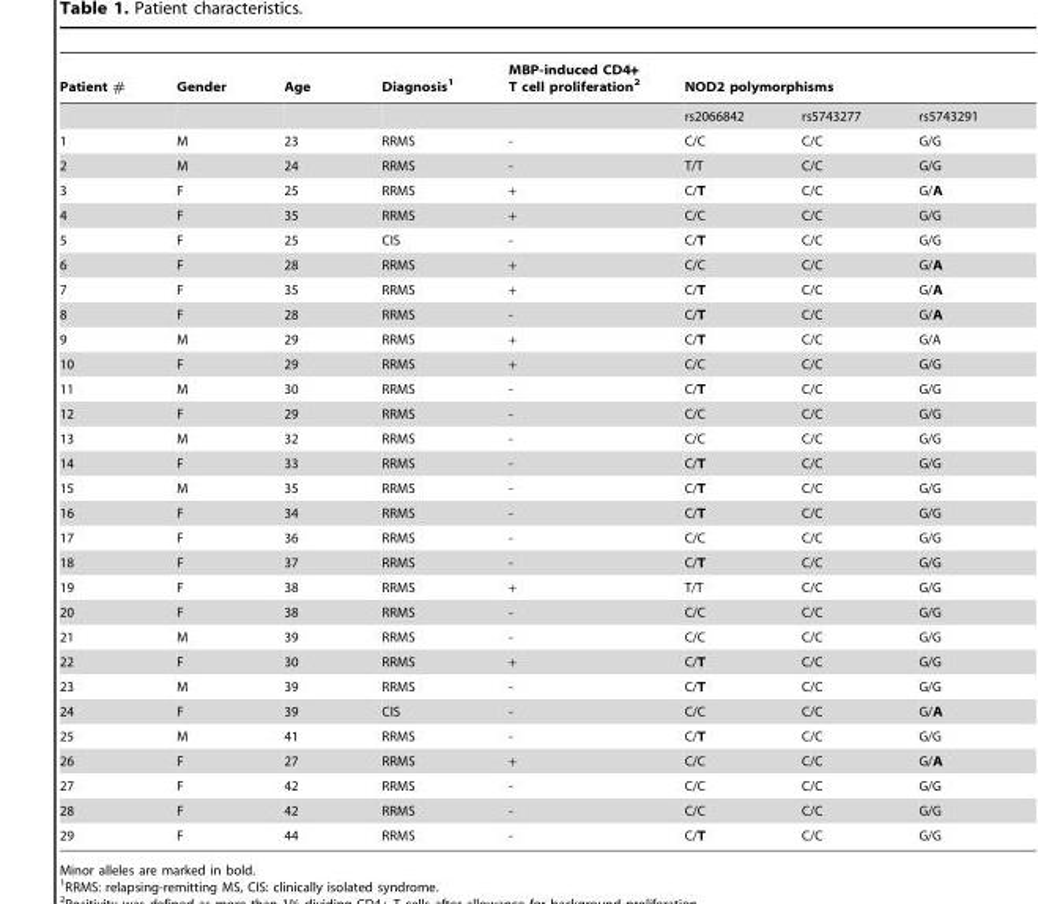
<table><thead><tr><td rowspan="2">Patient #</td><td rowspan="2">Gender</td><td rowspan="2">Age</td><td rowspan="2">Diagnosis<sup>1</sup></td><td rowspan="2">MBP-induced CD4+ T cell proliferation<sup>2</sup></td><td colspan="3">NOD2 polymorphisms</td></tr><tr><td>rs2066842</td><td>rs5743277</td><td>rs5743291</td></tr></thead><tbody><tr><td>1</td><td>M</td><td>23</td><td>RRMS</td><td>-</td><td>C/C</td><td>C/C</td><td>G/G</td></tr><tr><td>2</td><td>M</td><td>24</td><td>RRMS</td><td>-</td><td>T/T</td><td>C/C</td><td>G/G</td></tr><tr><td>3</td><td>F</td><td>25</td><td>RRMS</td><td>+</td><td>C/T</td><td>C/C</td><td>G/A</td></tr><tr><td>4</td><td>F</td><td>35</td><td>RRMS</td><td>+</td><td>C/C</td><td>C/C</td><td>G/G</td></tr><tr><td>5</td><td>F</td><td>25</td><td>CIS</td><td>-</td><td>C/T</td><td>C/C</td><td>G/G</td></tr><tr><td>6</td><td>F</td><td>28</td><td>RRMS</td><td>+</td><td>C/C</td><td>C/C</td><td>G/A</td></tr><tr><td>7</td><td>F</td><td>35</td><td>RRMS</td><td>+</td><td>C/T</td><td>C/C</td><td>G/A</td></tr><tr><td>8</td><td>F</td><td>28</td><td>RRMS</td><td>-</td><td>C/T</td><td>C/C</td><td>G/A</td></tr><tr><td>9</td><td>M</td><td>29</td><td>RRMS</td><td>+</td><td>C/T</td><td>C/C</td><td>G/A</td></tr><tr><td>10</td><td>F</td><td>29</td><td>RRMS</td><td>+</td><td>C/C</td><td>C/C</td><td>G/G</td></tr><tr><td>11</td><td>M</td><td>30</td><td>RRMS</td><td>-</td><td>C/T</td><td>C/C</td><td>G/G</td></tr><tr><td>12</td><td>F</td><td>29</td><td>RRMS</td><td>-</td><td>C/C</td><td>C/C</td><td>G/G</td></tr><tr><td>13</td><td>M</td><td>32</td><td>RRMS</td><td>-</td><td>C/C</td><td>C/C</td><td>G/G</td></tr><tr><td>14</td><td>F</td><td>33</td><td>RRMS</td><td>-</td><td>C/T</td><td>C/C</td><td>G/G</td></tr><tr><td>15</td><td>M</td><td>35</td><td>RRMS</td><td>-</td><td>C/T</td><td>C/C</td><td>G/G</td></tr><tr><td>16</td><td>F</td><td>34</td><td>RRMS</td><td>-</td><td>C/T</td><td>C/C</td><td>G/G</td></tr><tr><td>17</td><td>F</td><td>36</td><td>RRMS</td><td>-</td><td>C/C</td><td>C/C</td><td>G/G</td></tr><tr><td>18</td><td>F</td><td>37</td><td>RRMS</td><td>-</td><td>C/T</td><td>C/C</td><td>G/G</td></tr><tr><td>19</td><td>F</td><td>38</td><td>RRMS</td><td>+</td><td>T/T</td><td>C/C</td><td>G/G</td></tr><tr><td>20</td><td>F</td><td>38</td><td>RRMS</td><td>-</td><td>C/C</td><td>C/C</td><td>G/G</td></tr><tr><td>21</td><td>M</td><td>39</td><td>RRMS</td><td>-</td><td>C/C</td><td>C/C</td><td>G/G</td></tr><tr><td>22</td><td>F</td><td>30</td><td>RRMS</td><td>+</td><td>C/T</td><td>C/C</td><td>G/G</td></tr><tr><td>23</td><td>M</td><td>39</td><td>RRMS</td><td>-</td><td>C/T</td><td>C/C</td><td>G/G</td></tr><tr><td>24</td><td>F</td><td>39</td><td>CIS</td><td>-</td><td>C/C</td><td>C/C</td><td>G/A</td></tr><tr><td>25</td><td>M</td><td>41</td><td>RRMS</td><td>-</td><td>C/T</td><td>C/C</td><td>G/G</td></tr><tr><td>26</td><td>F</td><td>27</td><td>RRMS</td><td>+</td><td>C/C</td><td>C/C</td><td>G/A</td></tr><tr><td>27</td><td>F</td><td>42</td><td>RRMS</td><td>-</td><td>C/C</td><td>C/C</td><td>G/G</td></tr><tr><td>28</td><td>F</td><td>42</td><td>RRMS</td><td>-</td><td>C/C</td><td>C/C</td><td>G/G</td></tr><tr><td>29</td><td>F</td><td>44</td><td>RRMS</td><td>-</td><td>C/T</td><td>C/C</td><td>G/G</td></tr></tbody></table>